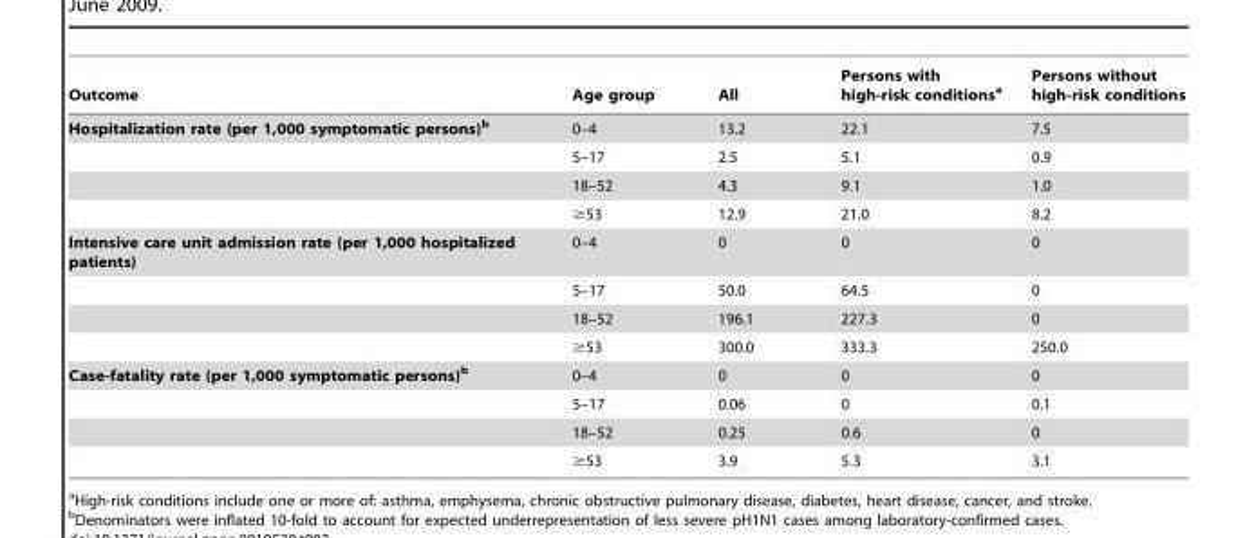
<table><thead><tr><td>Outcome</td><td>Age group</td><td>All</td><td>Persons with high-risk conditions<sup>a</sup></td><td>Persons without high-risk conditions</td></tr></thead><tbody><tr><td rowspan="4">Hospitalization rate (per 1,000 symptomatic persons)b</td><td>0–4</td><td>13.2</td><td>22.1</td><td>7.5</td></tr><tr><td>5–17</td><td>2.5</td><td>5.1</td><td>0.9</td></tr><tr><td>18–52</td><td>4.3</td><td>9.1</td><td>1.0</td></tr><tr><td>≥53</td><td>12.9</td><td>21.0</td><td>8.2</td></tr><tr><td rowspan="4">Intensive care unit admission rate (per 1,000 hospitalized patients)</td><td>0–4</td><td>0</td><td>0</td><td>0</td></tr><tr><td>5–17</td><td>50.0</td><td>64.5</td><td>0</td></tr><tr><td>18–52</td><td>196.1</td><td>227.3</td><td>0</td></tr><tr><td>≥53</td><td>300.0</td><td>333.3</td><td>250.0</td></tr><tr><td rowspan="4">Case-fatality rate (per 1,000 symptomatic persons)b</td><td>0–4</td><td>0</td><td>0</td><td>0</td></tr><tr><td>5–17</td><td>0.06</td><td>0</td><td>0.1</td></tr><tr><td>18–52</td><td>0.25</td><td>0.6</td><td>0</td></tr><tr><td>≥53</td><td>3.9</td><td>5.3</td><td>3.1</td></tr></tbody></table>